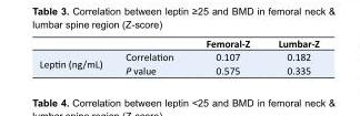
<table><thead><tr><td></td><td></td><td>Femoral-Z</td><td>Lumbar-Z</td></tr></thead><tbody><tr><td rowspan="2">Leptin (ng/mL)</td><td>Correlation</td><td>0.107</td><td>0.182</td></tr><tr><td>P value</td><td>0.575</td><td>0.335</td></tr></tbody></table>